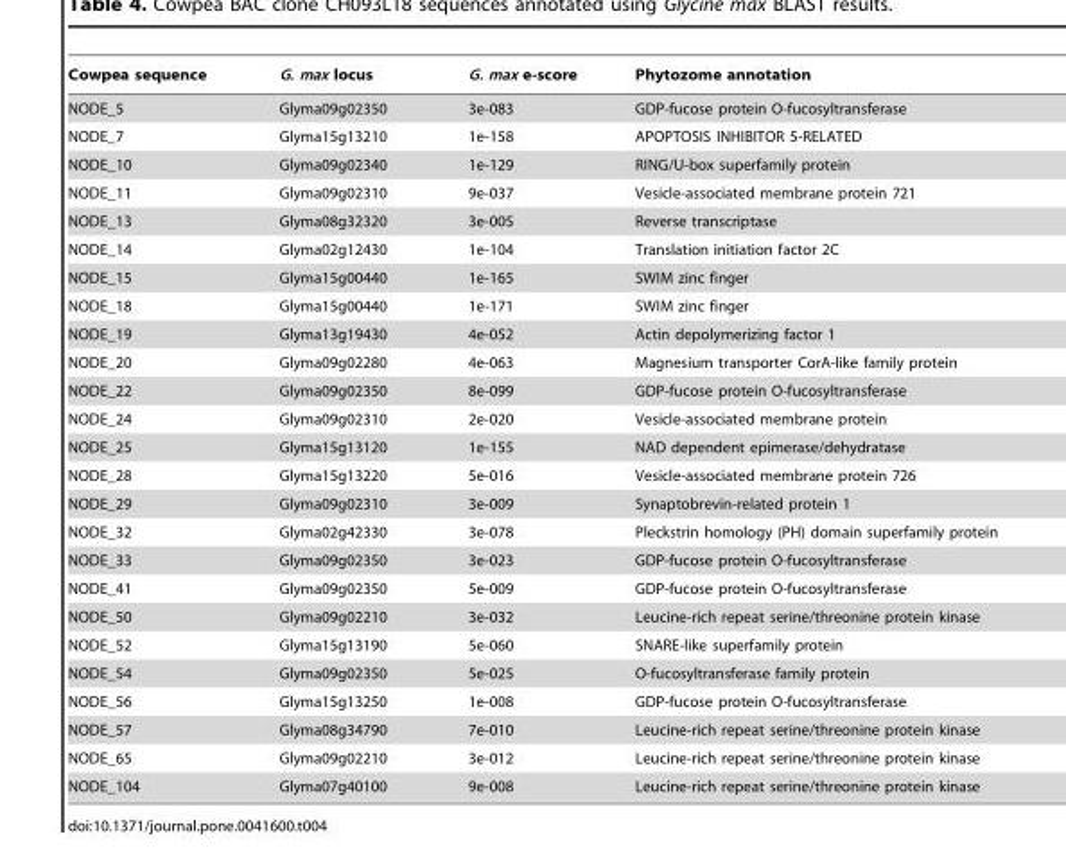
<table><thead><tr><td>Cowpea sequence</td><td>G. max locus</td><td>G. max e-score</td><td>Phytozome annotation</td></tr></thead><tbody><tr><td>NODE_5</td><td>Glyma09g02350</td><td>3e-083</td><td>GDP-fucose protein O-fucosyltransferase</td></tr><tr><td>NODE_7</td><td>Glyma15g13210</td><td>1e-158</td><td>APOPTOSIS INHIBITOR 5-RELATED</td></tr><tr><td>NODE_10</td><td>Glyma09g02340</td><td>1e-129</td><td>RING/U-box superfamily protein</td></tr><tr><td>NODE_11</td><td>Glyma09g02310</td><td>9e-037</td><td>Vesicle-associated membrane protein 721</td></tr><tr><td>NODE_13</td><td>Glyma08g32320</td><td>3e-005</td><td>Reverse transcriptase</td></tr><tr><td>NODE_14</td><td>Glyma02g12430</td><td>1e-104</td><td>Translation initiation factor 2C</td></tr><tr><td>NODE_15</td><td>Glyma15g00440</td><td>1e-165</td><td>SWIM zinc finger</td></tr><tr><td>NODE_18</td><td>Glyma15g00440</td><td>1e-171</td><td>SWIM zinc finger</td></tr><tr><td>NODE_19</td><td>Glyma13g19430</td><td>4e-052</td><td>Actin depolymerizing factor 1</td></tr><tr><td>NODE_20</td><td>Glyma09g02280</td><td>4e-063</td><td>Magnesium transporter CorA-like family protein</td></tr><tr><td>NODE_22</td><td>Glyma09g02350</td><td>8e-099</td><td>GDP-fucose protein O-fucosyltransferase</td></tr><tr><td>NODE_24</td><td>Glyma09g02310</td><td>2e-020</td><td>Vesicle-associated membrane protein</td></tr><tr><td>NODE_25</td><td>Glyma15g13120</td><td>1e-155</td><td>NAD dependent epimerase/dehydratase</td></tr><tr><td>NODE_28</td><td>Glyma15g13220</td><td>5e-016</td><td>Vesicle-associated membrane protein 726</td></tr><tr><td>NODE_29</td><td>Glyma09g02310</td><td>3e-009</td><td>Synaptobrevin-related protein 1</td></tr><tr><td>NODE_32</td><td>Glyma02g42330</td><td>3e-078</td><td>Pleckstrin homology (PH) domain superfamily protein</td></tr><tr><td>NODE_33</td><td>Glyma09g02350</td><td>3e-023</td><td>GDP-fucose protein O-fucosyltransferase</td></tr><tr><td>NODE_41</td><td>Glyma09g02350</td><td>5e-009</td><td>GDP-fucose protein O-fucosyltransferase</td></tr><tr><td>NODE_50</td><td>Glyma09g02210</td><td>3e-032</td><td>Leucine-rich repeat serine/threonine protein kinase</td></tr><tr><td>NODE_52</td><td>Glyma15g13190</td><td>5e-060</td><td>SNARE-like superfamily protein</td></tr><tr><td>NODE_54</td><td>Glyma09g02350</td><td>5e-025</td><td>O-fucosyltransferase family protein</td></tr><tr><td>NODE_56</td><td>Glyma15g13250</td><td>1e-008</td><td>GDP-fucose protein O-fucosyltransferase</td></tr><tr><td>NODE_57</td><td>Glyma08g34790</td><td>7e-010</td><td>Leucine-rich repeat serine/threonine protein kinase</td></tr><tr><td>NODE_65</td><td>Glyma09g02210</td><td>3e-012</td><td>Leucine-rich repeat serine/threonine protein kinase</td></tr><tr><td>NODE_104</td><td>Glyma07g40100</td><td>9e-008</td><td>Leucine-rich repeat serine/threonine protein kinase</td></tr></tbody></table>